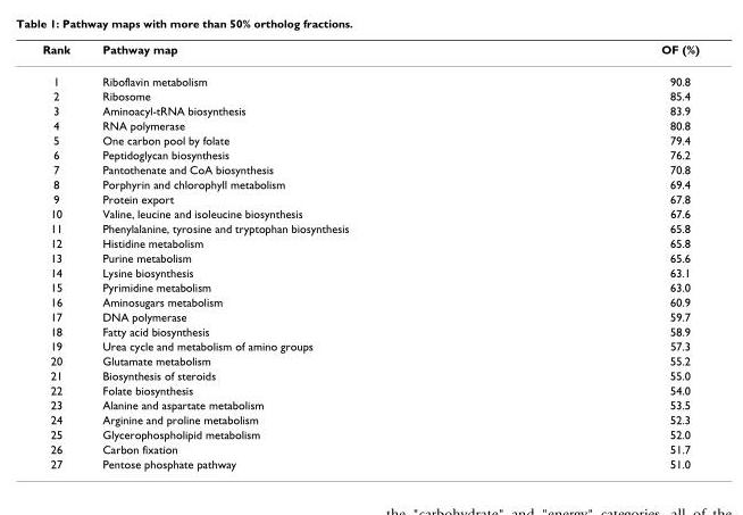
<table><thead><tr><td>Rank</td><td>Pathway map</td><td>OF (%)</td></tr></thead><tbody><tr><td>1</td><td>Riboflavin metabolism</td><td>90.8</td></tr><tr><td>2</td><td>Ribosome</td><td>85.4</td></tr><tr><td>3</td><td>Aminoacyl-tRNA biosynthesis</td><td>83.9</td></tr><tr><td>4</td><td>RNA polymerase</td><td>80.8</td></tr><tr><td>5</td><td>One carbon pool by folate</td><td>79.4</td></tr><tr><td>6</td><td>Peptidoglycan biosynthesis</td><td>76.2</td></tr><tr><td>7</td><td>Pantothenate and CoA biosynthesis</td><td>70.8</td></tr><tr><td>8</td><td>Porphyrin and chlorophyll metabolism</td><td>69.4</td></tr><tr><td>9</td><td>Protein export</td><td>67.8</td></tr><tr><td>10</td><td>Valine, leucine and isoleucine biosynthesis</td><td>67.6</td></tr><tr><td>11</td><td>Phenylalanine, tyrosine and tryptophan biosynthesis</td><td>65.8</td></tr><tr><td>12</td><td>Histidine metabolism</td><td>65.8</td></tr><tr><td>13</td><td>Purine metabolism</td><td>65.6</td></tr><tr><td>14</td><td>Lysine biosynthesis</td><td>63.1</td></tr><tr><td>15</td><td>Pyrimidine metabolism</td><td>63.0</td></tr><tr><td>16</td><td>Aminosugars metabolism</td><td>60.9</td></tr><tr><td>17</td><td>DNA polymerase</td><td>59.7</td></tr><tr><td>18</td><td>Fatty acid biosynthesis</td><td>58.9</td></tr><tr><td>19</td><td>Urea cycle and metabolism of amino groups</td><td>57.3</td></tr><tr><td>20</td><td>Glutamate metabolism</td><td>55.2</td></tr><tr><td>21</td><td>Biosynthesis of steroids</td><td>55.0</td></tr><tr><td>22</td><td>Folate biosynthesis</td><td>54.0</td></tr><tr><td>23</td><td>Alanine and aspartate metabolism</td><td>53.5</td></tr><tr><td>24</td><td>Arginine and proline metabolism</td><td>52.3</td></tr><tr><td>25</td><td>Glycerophospholipid metabolism</td><td>52.0</td></tr><tr><td>26</td><td>Carbon fixation</td><td>51.7</td></tr><tr><td>27</td><td>Pentose phosphate pathway</td><td>51.0</td></tr></tbody></table>